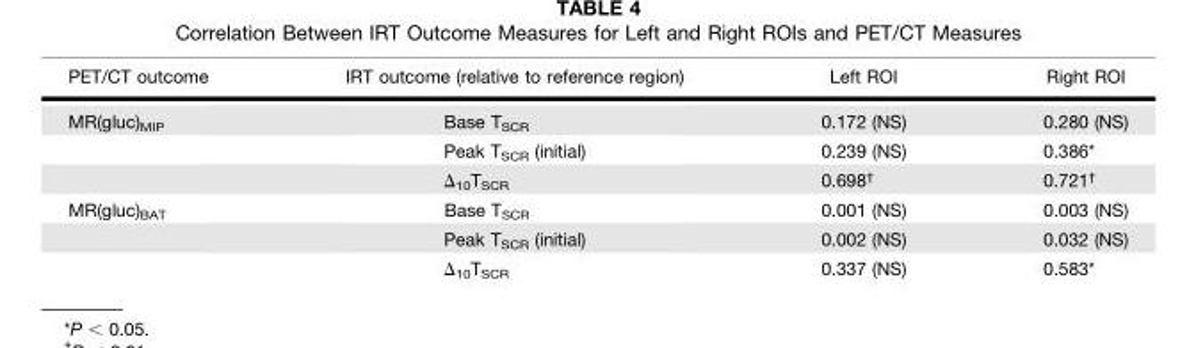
<table><thead><tr><td>PET/CT outcome</td><td>IRT outcome (relative to reference region)</td><td>Left ROI</td><td>Right ROI</td></tr></thead><tbody><tr><td rowspan="3">MR(gluc)<sub>MIP</sub></td><td>Base T<sub>SCR</sub></td><td>0.172 (NS)</td><td>0.280 (NS)</td></tr><tr><td>Peak T<sub>SCR</sub> (initial)</td><td>0.239 (NS)</td><td>0.386*</td></tr><tr><td>Δ<sub>10</sub>T<sub>SCR</sub></td><td>0.698<sup>†</sup></td><td>0.721<sup>†</sup></td></tr><tr><td rowspan="3">MR(gluc)<sub>BAT</sub></td><td>Base T<sub>SCR</sub></td><td>0.001 (NS)</td><td>0.003 (NS)</td></tr><tr><td>Peak T<sub>SCR</sub> (initial)</td><td>0.002 (NS)</td><td>0.032 (NS)</td></tr><tr><td>Δ<sub>10</sub>T<sub>SCR</sub></td><td>0.337 (NS)</td><td>0.583*</td></tr></tbody></table>